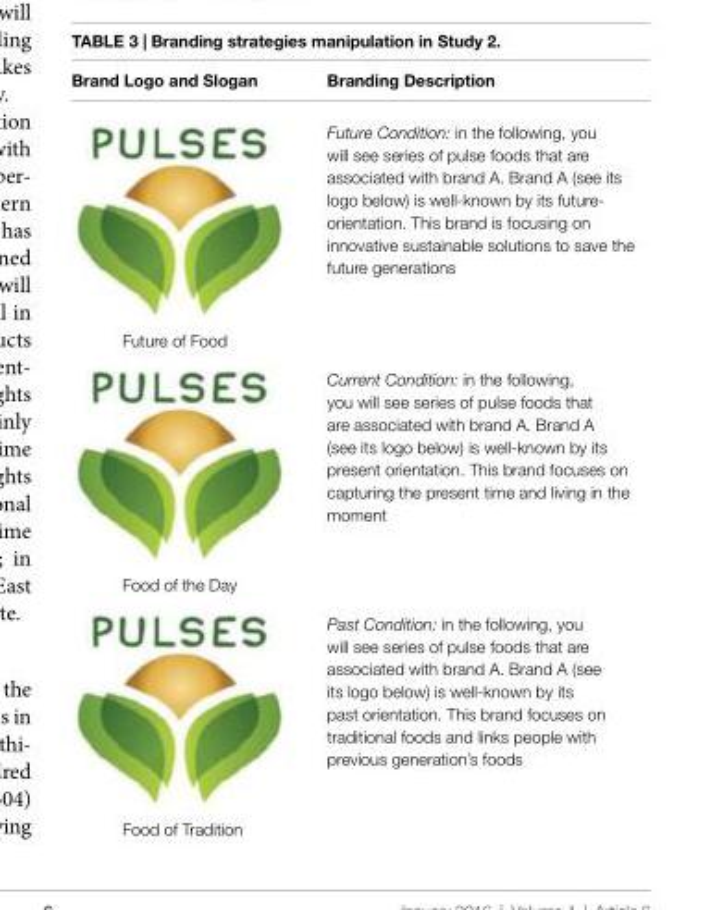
<table><thead><tr><td>Brand logo and slogan</td><td>Branding Description</td></tr></thead><tbody><tr><td>Future of Food</td><td>Future Condition: in the following, you will see series of pulse foods that are associated with brand A. Brand A (see its logo below) is well-known by its future- orientation. This brand is focusing on innovative sustainable solutions to save the future generations</td></tr><tr><td>Food of the Day</td><td>Current Condition: in the following, you will see series of pulse foods that are associated with brand A. Brand A (see its logo below) is well-known by its present orientation. This brand focuses on capturing the present time and living in the moment</td></tr><tr><td>Food of Tradition</td><td>Past Condition: in the following, you will see series of pulse foods that are associated with brand A. Brand A (see its logo below) is well-known by its past orientation. This brand focuses on traditional foods and links people with previous generation’s foods</td></tr></tbody></table>